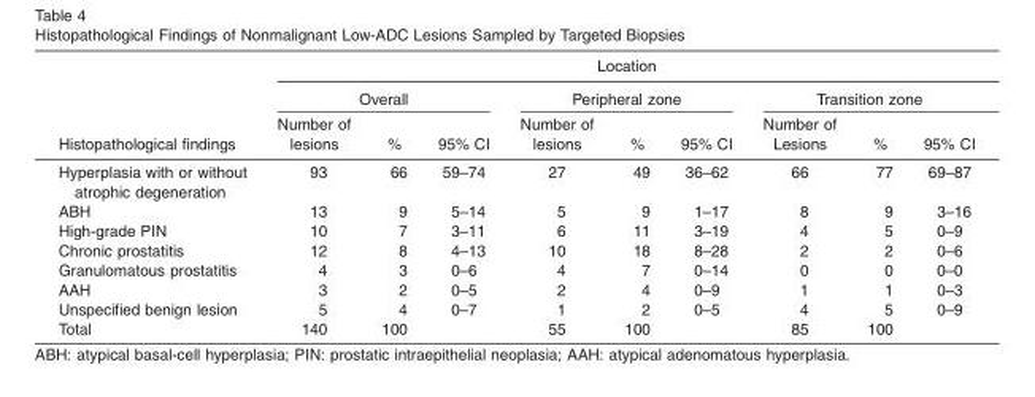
<table><thead><tr><td rowspan="3">Histopathological findings</td><td colspan="9">Location</td></tr><tr><td colspan="3">Overall</td><td colspan="3">Peripheral zone</td><td colspan="3">Transition zone</td></tr><tr><td>Number of lesions</td><td>%</td><td>95% CI</td><td>Number of lesions</td><td>%</td><td>95% CI</td><td>Number of Lesions</td><td>%</td><td>95% CI</td></tr></thead><tbody><tr><td>Hyperplasia with or without atrophic degeneration</td><td>93</td><td>66</td><td>59–74</td><td>27</td><td>49</td><td>36–62</td><td>66</td><td>77</td><td>69–87</td></tr><tr><td>ABH</td><td>13</td><td>9</td><td>5–14</td><td>5</td><td>9</td><td>1–17</td><td>8</td><td>9</td><td>3–16</td></tr><tr><td>High-grade PIN</td><td>10</td><td>7</td><td>3–11</td><td>6</td><td>11</td><td>3–19</td><td>4</td><td>5</td><td>0–9</td></tr><tr><td>Chronic prostatitis</td><td>12</td><td>8</td><td>4–13</td><td>10</td><td>18</td><td>8–28</td><td>2</td><td>2</td><td>0–6</td></tr><tr><td>Granulomatous prostatitis</td><td>4</td><td>3</td><td>0–6</td><td>4</td><td>7</td><td>0–14</td><td>0</td><td>0</td><td>0–0</td></tr><tr><td>AAH</td><td>3</td><td>2</td><td>0–5</td><td>2</td><td>4</td><td>0–9</td><td>1</td><td>1</td><td>0–3</td></tr><tr><td>Unspecified benign lesion</td><td>5</td><td>4</td><td>0–7</td><td>1</td><td>2</td><td>0–5</td><td>4</td><td>5</td><td>0–9</td></tr><tr><td>Total</td><td>140</td><td>100</td><td></td><td>55</td><td>100</td><td></td><td>85</td><td>100</td><td></td></tr></tbody></table>